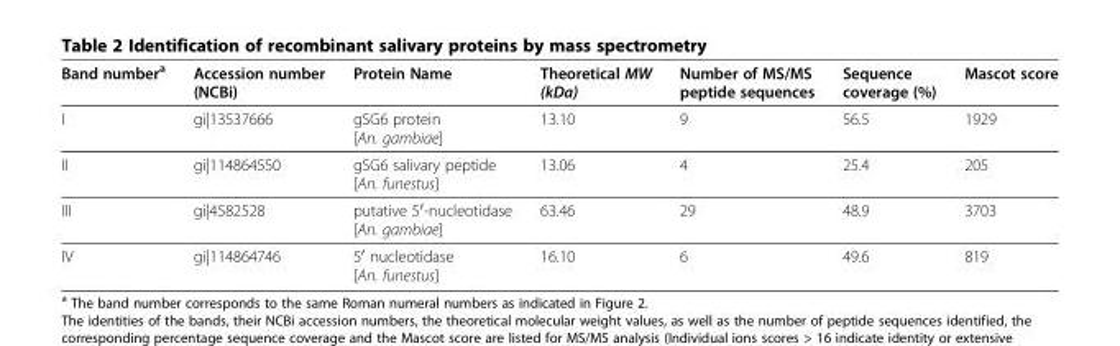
<table><thead><tr><td>Band number<sup>a</sup></td><td>Accession number (NCBi)</td><td>Protein Name</td><td>Theoretical MW (kDa)</td><td>Number of MS/MS peptide sequences</td><td>Sequence coverage (%)</td><td>Mascot score</td></tr></thead><tbody><tr><td>I</td><td>gi|13537666</td><td>gSG6 protein [An. gambiae]</td><td>13.10</td><td>9</td><td>56.5</td><td>1929</td></tr><tr><td>II</td><td>gi|114864550</td><td>gSG6 salivary peptide [An. funestus]</td><td>13.06</td><td>4</td><td>25.4</td><td>205</td></tr><tr><td>III</td><td>gi|4582528</td><td>putative 5′-nucleotidase [An. gambiae]</td><td>63.46</td><td>29</td><td>48.9</td><td>3703</td></tr><tr><td>IV</td><td>gi|114864746</td><td>5′ nucleotidase [An. funestus]</td><td>16.10</td><td>6</td><td>49.6</td><td>819</td></tr></tbody></table>